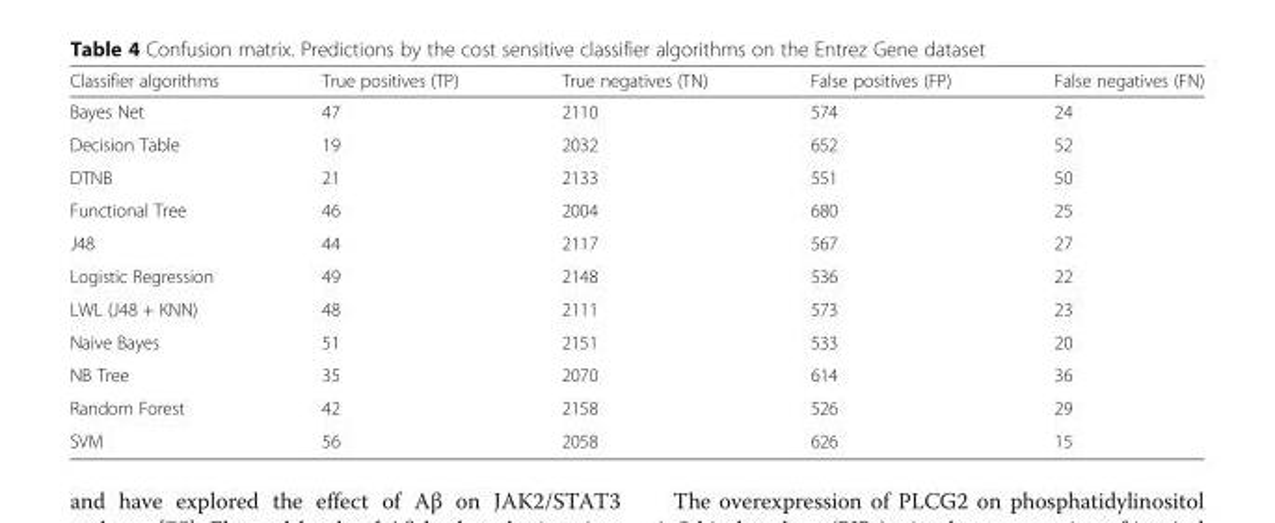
<table><thead><tr><td>Classifier algorithms</td><td>True positives (TP)</td><td>True negatives (TN)</td><td>False positives (FP)</td><td>False negatives (FN)</td></tr></thead><tbody><tr><td>Bayes Net</td><td>47</td><td>2110</td><td>574</td><td>24</td></tr><tr><td>Decision Table</td><td>19</td><td>2032</td><td>652</td><td>52</td></tr><tr><td>DTNB</td><td>21</td><td>2133</td><td>551</td><td>50</td></tr><tr><td>Functional Tree</td><td>46</td><td>2004</td><td>680</td><td>25</td></tr><tr><td>J48</td><td>44</td><td>2117</td><td>567</td><td>27</td></tr><tr><td>Logistic Regression</td><td>49</td><td>2148</td><td>536</td><td>22</td></tr><tr><td>LWL (J48 + KNN)</td><td>48</td><td>2111</td><td>573</td><td>23</td></tr><tr><td>Naive Bayes</td><td>51</td><td>2151</td><td>533</td><td>20</td></tr><tr><td>NB Tree</td><td>35</td><td>2070</td><td>614</td><td>36</td></tr><tr><td>Random Forest</td><td>42</td><td>2158</td><td>526</td><td>29</td></tr><tr><td>SVM</td><td>56</td><td>2058</td><td>626</td><td>15</td></tr></tbody></table>